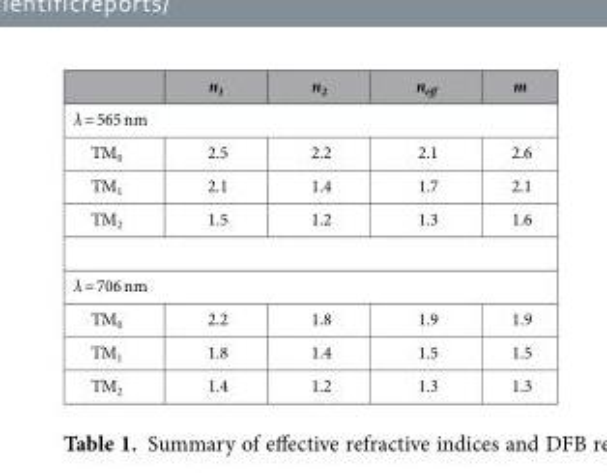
<table><thead><tr><td></td><td>n<sub>1</sub></td><td>n<sub>2</sub></td><td>n<sub>eff</sub></td><td>m</td></tr></thead><tbody><tr><td colspan="5">λ = 565 nm</td></tr><tr><td>TM<sub>0</sub></td><td>2.5</td><td>2.2</td><td>2.1</td><td>2.6</td></tr><tr><td>TM<sub>1</sub></td><td>2.1</td><td>1.4</td><td>1.7</td><td>2.1</td></tr><tr><td>TM<sub>2</sub></td><td>1.5</td><td>1.2</td><td>1.3</td><td>1.6</td></tr><tr><td colspan="5">λ = 706 nm</td></tr><tr><td>TM<sub>0</sub></td><td>2.2</td><td>1.8</td><td>1.9</td><td>1.9</td></tr><tr><td>TM<sub>1</sub></td><td>1.8</td><td>1.4</td><td>1.5</td><td>1.5</td></tr><tr><td>TM<sub>2</sub></td><td>1.4</td><td>1.2</td><td>1.3</td><td>1.3</td></tr></tbody></table>